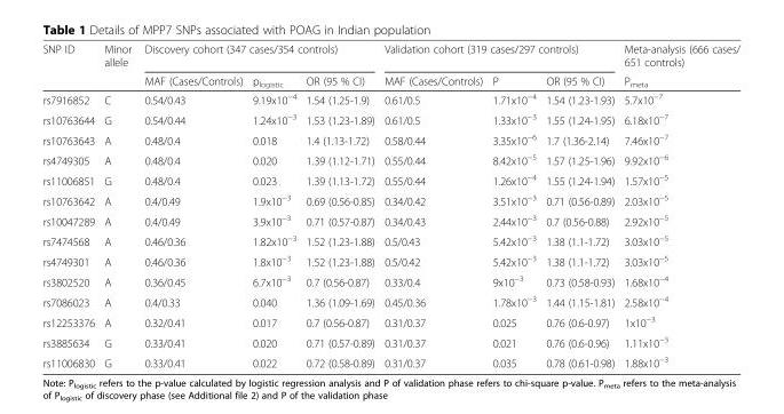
<table><thead><tr><td rowspan="2">SNP ID</td><td rowspan="2">Minor allele</td><td colspan="3">Discovery cohort (347 cases/354 controls)</td><td colspan="3">Validation cohort (319 cases/297 controls)</td><td rowspan="2">Meta-analysis (666 cases/ 651 controls) P<sub>meta</sub></td></tr><tr><td>MAF (Cases/Controls)</td><td>p<sub>logistic</sub></td><td>OR (95 % CI)</td><td>MAF (Cases/Controls)</td><td>P</td><td>OR (95 % CI)</td></tr></thead><tbody><tr><td>rs7916852</td><td>C</td><td>0.54/0.43</td><td>9.19x10<sup>−4</sup></td><td>1.54 (1.25-1.9)</td><td>0.61/0.5</td><td>1.71x10<sup>−4</sup></td><td>1.54 (1.23-1.93)</td><td>5.7x10<sup>−7</sup></td></tr><tr><td>rs10763644</td><td>G</td><td>0.54/0.44</td><td>1.24x10<sup>−3</sup></td><td>1.53 (1.23-1.89)</td><td>0.61/0.5</td><td>1.33x10<sup>−3</sup></td><td>1.55 (1.24-1.95)</td><td>6.18x10<sup>−7</sup></td></tr><tr><td>rs10763643</td><td>A</td><td>0.48/0.4</td><td>0.018</td><td>1.4 (1.13-1.72)</td><td>0.58/0.44</td><td>3.35x10<sup>−6</sup></td><td>1.7 (1.36-2.14)</td><td>7.46x10<sup>−7</sup></td></tr><tr><td>rs4749305</td><td>A</td><td>0.48/0.4</td><td>0.020</td><td>1.39 (1.12-1.71)</td><td>0.55/0.44</td><td>8.42x10<sup>−5</sup></td><td>1.57 (1.25-1.96)</td><td>9.92x10<sup>−6</sup></td></tr><tr><td>rs11006851</td><td>G</td><td>0.48/0.4</td><td>0.023</td><td>1.39 (1.13-1.72)</td><td>0.55/0.44</td><td>1.26x10<sup>−4</sup></td><td>1.55 (1.24-1.94)</td><td>1.57x10<sup>−5</sup></td></tr><tr><td>rs10763642</td><td>A</td><td>0.4/0.49</td><td>1.9x10<sup>−3</sup></td><td>0.69 (0.56-0.85)</td><td>0.34/0.42</td><td>3.51x10<sup>−3</sup></td><td>0.71 (0.56-0.89)</td><td>2.03x10<sup>−5</sup></td></tr><tr><td>rs10047289</td><td>A</td><td>0.4/0.49</td><td>3.9x10<sup>−3</sup></td><td>0.71 (0.57-0.87)</td><td>0.34/0.43</td><td>2.44x10<sup>−3</sup></td><td>0.7 (0.56-0.88)</td><td>2.92x10<sup>−5</sup></td></tr><tr><td>rs7474568</td><td>A</td><td>0.46/0.36</td><td>1.82x10<sup>−3</sup></td><td>1.52 (1.23-1.88)</td><td>0.5/0.43</td><td>5.42x10<sup>−3</sup></td><td>1.38 (1.1-1.72)</td><td>3.03x10<sup>−5</sup></td></tr><tr><td>rs4749301</td><td>A</td><td>0.46/0.36</td><td>1.8x10<sup>−3</sup></td><td>1.52 (1.23-1.88)</td><td>0.5/0.42</td><td>5.42x10<sup>−3</sup></td><td>1.38 (1.1-1.72)</td><td>3.03x10<sup>−5</sup></td></tr><tr><td>rs3802520</td><td>A</td><td>0.36/0.45</td><td>6.7x10<sup>−3</sup></td><td>0.7 (0.56-0.87)</td><td>0.33/0.4</td><td>9x10<sup>−3</sup></td><td>0.73 (0.58-0.93)</td><td>1.68x10<sup>−4</sup></td></tr><tr><td>rs7086023</td><td>A</td><td>0.4/0.33</td><td>0.040</td><td>1.36 (1.09-1.69)</td><td>0.45/0.36</td><td>1.78x10<sup>−3</sup></td><td>1.44 (1.15-1.81)</td><td>2.58x10<sup>−4</sup></td></tr><tr><td>rs12253376</td><td>A</td><td>0.32/0.41</td><td>0.017</td><td>0.7 (0.56-0.87)</td><td>0.31/0.37</td><td>0.025</td><td>0.76 (0.6-0.97)</td><td>1x10<sup>−3</sup></td></tr><tr><td>rs3885634</td><td>G</td><td>0.33/0.41</td><td>0.020</td><td>0.71 (0.57-0.89)</td><td>0.31/0.37</td><td>0.021</td><td>0.76 (0.6-0.96)</td><td>1.11x10<sup>−3</sup></td></tr><tr><td>rs11006830</td><td>G</td><td>0.33/0.41</td><td>0.022</td><td>0.72 (0.58-0.89)</td><td>0.31/0.37</td><td>0.035</td><td>0.78 (0.61-0.98)</td><td>1.88x10<sup>−3</sup></td></tr></tbody></table>